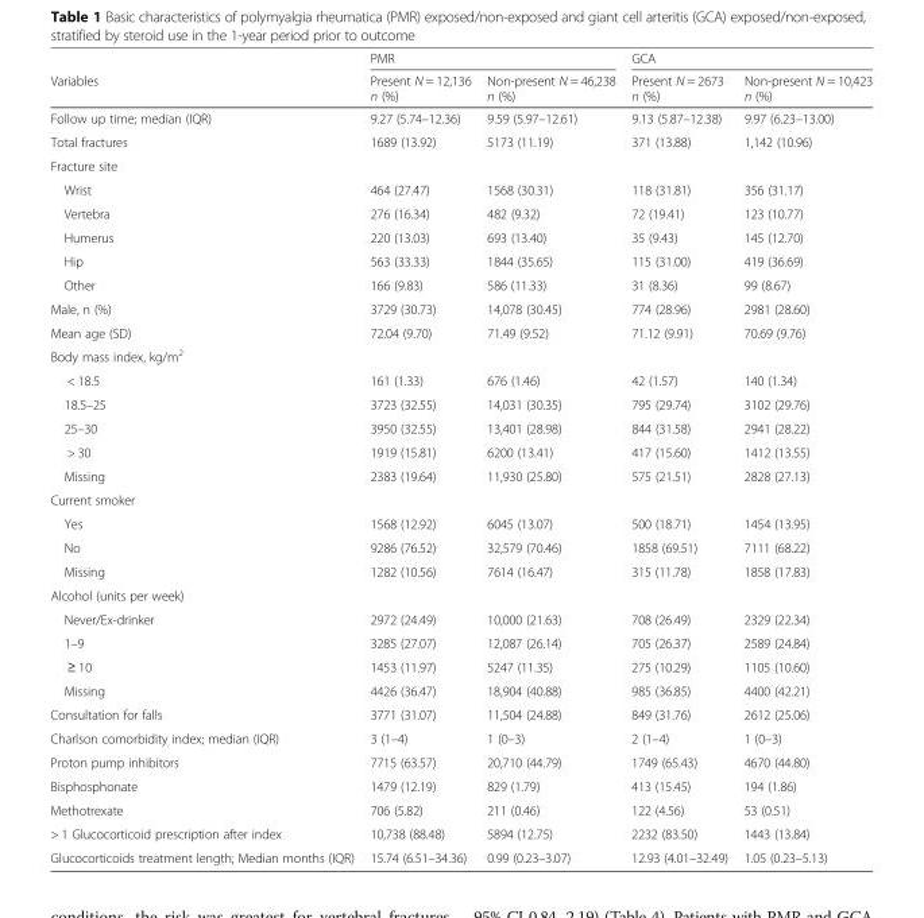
<table><thead><tr><td rowspan="2">Variables</td><td colspan="2">PMR</td><td colspan="2">GCA</td></tr><tr><td>Present N = 12,136 n (%)</td><td>Non-present N = 46,238 n (%)</td><td>Present N = 2673 n (%)</td><td>Non-present N = 10,423 n (%)</td></tr></thead><tbody><tr><td>Follow up time; median (IQR)</td><td>9.27 (5.74–12.36)</td><td>9.59 (5.97–12.61)</td><td>9.13 (5.87–12.38)</td><td>9.97 (6.23–13.00)</td></tr><tr><td>Total fractures</td><td>1689 (13.92)</td><td>5173 (11.19)</td><td>371 (13.88)</td><td>1,142 (10.96)</td></tr><tr><td colspan="5">Fracture site</td></tr><tr><td>Wrist</td><td>464 (27.47)</td><td>1568 (30.31)</td><td>118 (31.81)</td><td>356 (31.17)</td></tr><tr><td>Vertebra</td><td>276 (16.34)</td><td>482 (9.32)</td><td>72 (19.41)</td><td>123 (10.77)</td></tr><tr><td>Humerus</td><td>220 (13.03)</td><td>693 (13.40)</td><td>35 (9.43)</td><td>145 (12.70)</td></tr><tr><td>Hip</td><td>563 (33.33)</td><td>1844 (35.65)</td><td>115 (31.00)</td><td>419 (36.69)</td></tr><tr><td>Other</td><td>166 (9.83)</td><td>586 (11.33)</td><td>31 (8.36)</td><td>99 (8.67)</td></tr><tr><td>Male, n (%)</td><td>3729 (30.73)</td><td>14,078 (30.45)</td><td>774 (28.96)</td><td>2981 (28.60)</td></tr><tr><td>Mean age (SD)</td><td>72.04 (9.70)</td><td>71.49 (9.52)</td><td>71.12 (9.91)</td><td>70.69 (9.76)</td></tr><tr><td colspan="5">Body mass index, kg/m<sup>2</sup></td></tr><tr><td>&lt; 18.5</td><td>161 (1.33)</td><td>676 (1.46)</td><td>42 (1.57)</td><td>140 (1.34)</td></tr><tr><td>18.5–25</td><td>3723 (32.55)</td><td>14,031 (30.35)</td><td>795 (29.74)</td><td>3102 (29.76)</td></tr><tr><td>25–30</td><td>3950 (32.55)</td><td>13,401 (28.98)</td><td>844 (31.58)</td><td>2941 (28.22)</td></tr><tr><td>&gt; 30</td><td>1919 (15.81)</td><td>6200 (13.41)</td><td>417 (15.60)</td><td>1412 (13.55)</td></tr><tr><td>Missing</td><td>2383 (19.64)</td><td>11,930 (25.80)</td><td>575 (21.51)</td><td>2828 (27.13)</td></tr><tr><td colspan="5">Current smoker</td></tr><tr><td>Yes</td><td>1568 (12.92)</td><td>6045 (13.07)</td><td>500 (18.71)</td><td>1454 (13.95)</td></tr><tr><td>No</td><td>9286 (76.52)</td><td>32,579 (70.46)</td><td>1858 (69.51)</td><td>7111 (68.22)</td></tr><tr><td>Missing</td><td>1282 (10.56)</td><td>7614 (16.47)</td><td>315 (11.78)</td><td>1858 (17.83)</td></tr><tr><td colspan="5">Alcohol (units per week)</td></tr><tr><td>Never/Ex-drinker</td><td>2972 (24.49)</td><td>10,000 (21.63)</td><td>708 (26.49)</td><td>2329 (22.34)</td></tr><tr><td>1–9</td><td>3285 (27.07)</td><td>12,087 (26.14)</td><td>705 (26.37)</td><td>2589 (24.84)</td></tr><tr><td>≥ 10</td><td>1453 (11.97)</td><td>5247 (11.35)</td><td>275 (10.29)</td><td>1105 (10.60)</td></tr><tr><td>Missing</td><td>4426 (36.47)</td><td>18,904 (40.88)</td><td>985 (36.85)</td><td>4400 (42.21)</td></tr><tr><td>Consultation for falls</td><td>3771 (31.07)</td><td>11,504 (24.88)</td><td>849 (31.76)</td><td>2612 (25.06)</td></tr><tr><td>Charlson comorbidity index; median (IQR)</td><td>3 (1–4)</td><td>1 (0–3)</td><td>2 (1–4)</td><td>1 (0–3)</td></tr><tr><td>Proton pump inhibitors</td><td>7715 (63.57)</td><td>20,710 (44.79)</td><td>1749 (65.43)</td><td>4670 (44.80)</td></tr><tr><td>Bisphosphonate</td><td>1479 (12.19)</td><td>829 (1.79)</td><td>413 (15.45)</td><td>194 (1.86)</td></tr><tr><td>Methotrexate</td><td>706 (5.82)</td><td>211 (0.46)</td><td>122 (4.56)</td><td>53 (0.51)</td></tr><tr><td>&gt; 1 Glucocorticoid prescription after index</td><td>10,738 (88.48)</td><td>5894 (12.75)</td><td>2232 (83.50)</td><td>1443 (13.84)</td></tr><tr><td>Glucocorticoids treatment length; Median months (IQR)</td><td>15.74 (6.51–34.36)</td><td>0.99 (0.23–3.07)</td><td>12.93 (4.01–32.49)</td><td>1.05 (0.23–5.13)</td></tr></tbody></table>